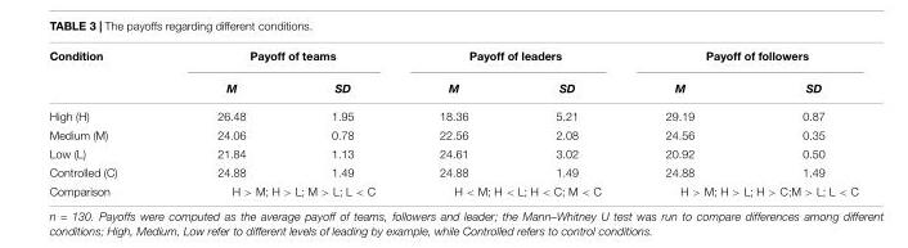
<table><thead><tr><td rowspan="2">Condition</td><td colspan="2">Payoff of teams</td><td colspan="2">Payoff of leaders</td><td colspan="2">Payoff of followers</td></tr><tr><td>M</td><td>SD</td><td>M</td><td>SD</td><td>M</td><td>SD</td></tr></thead><tbody><tr><td>High (H)</td><td>26.48</td><td>1.95</td><td>18.36</td><td>5.21</td><td>29.19</td><td>0.87</td></tr><tr><td>Medium (M)</td><td>24.06</td><td>0.78</td><td>22.56</td><td>2.08</td><td>24.56</td><td>0.35</td></tr><tr><td>Low (L)</td><td>21.84</td><td>1.13</td><td>24.61</td><td>3.02</td><td>20.92</td><td>0.50</td></tr><tr><td>Controlled (C)</td><td>24.88</td><td>1.49</td><td>24.88</td><td>1.49</td><td>24.88</td><td>1.49</td></tr><tr><td>Comparison</td><td colspan="2">H &gt; M; H &gt; L; M &gt; L; L &lt; C</td><td colspan="2">H &lt; M; H &lt; L; H &lt; C; M &lt; C</td><td colspan="2">H &gt; M; H &gt; L; H &gt; C;M &gt; L; L &lt; C</td></tr></tbody></table>